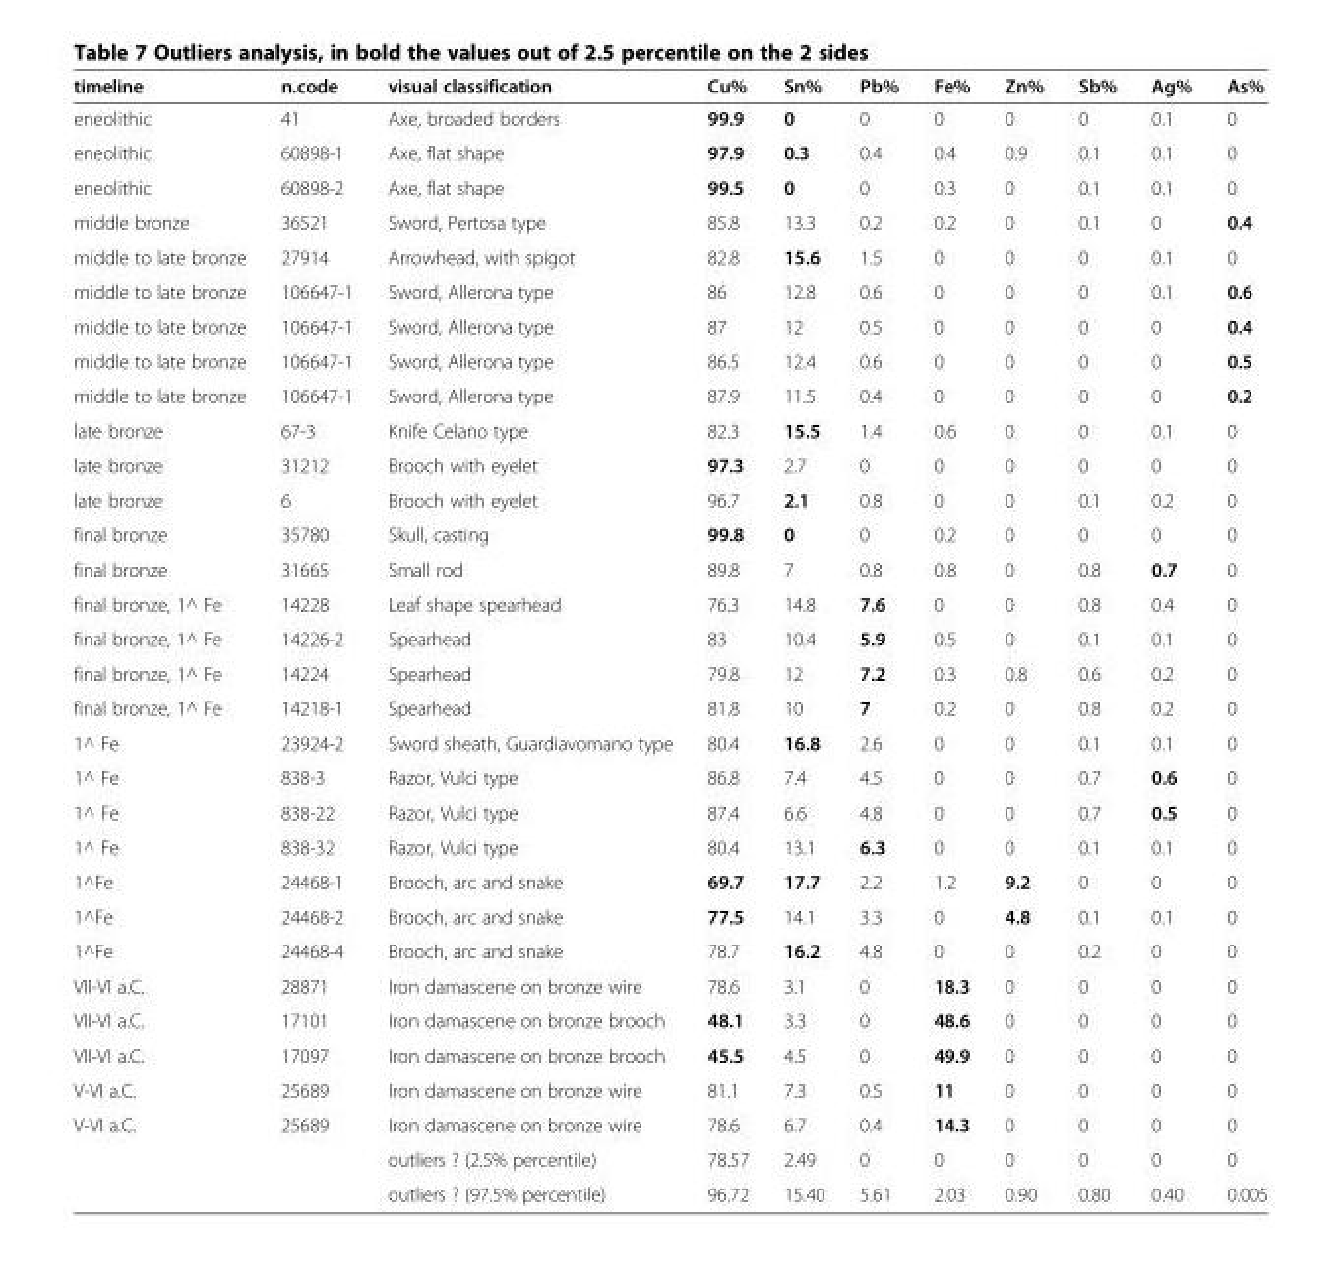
<table><thead><tr><td>timeline</td><td>n.code</td><td>visual classification</td><td>Cu%</td><td>Sn%</td><td>Pb%</td><td>Fe%</td><td>Zn%</td><td>Sb%</td><td>Ag%</td><td>As%</td></tr></thead><tbody><tr><td>eneolithic</td><td>41</td><td>Axe, broaded borders</td><td>99.9</td><td>0</td><td>0</td><td>0</td><td>0</td><td>0</td><td>0.1</td><td>0</td></tr><tr><td>eneolithic</td><td>60898-1</td><td>Axe, flat shape</td><td>97.9</td><td>0.3</td><td>0.4</td><td>0.4</td><td>0.9</td><td>0.1</td><td>0.1</td><td>0</td></tr><tr><td>eneolithic</td><td>60898-2</td><td>Axe, flat shape</td><td>99.5</td><td>0</td><td>0</td><td>0.3</td><td>0</td><td>0.1</td><td>0.1</td><td>0</td></tr><tr><td>middle bronze</td><td>36521</td><td>Sword, Pertosa type</td><td>85.8</td><td>13.3</td><td>0.2</td><td>0.2</td><td>0</td><td>0.1</td><td>0</td><td>0.4</td></tr><tr><td>middle to late bronze</td><td>27914</td><td>Arrowhead, with spigot</td><td>82.8</td><td>15.6</td><td>1.5</td><td>0</td><td>0</td><td>0</td><td>0.1</td><td>0</td></tr><tr><td>middle to late bronze</td><td>106647-1</td><td>Sword, Allerona type</td><td>86</td><td>12.8</td><td>0.6</td><td>0</td><td>0</td><td>0</td><td>0.1</td><td>0.6</td></tr><tr><td>middle to late bronze</td><td>106647-1</td><td>Sword, Allerona type</td><td>87</td><td>12</td><td>0.5</td><td>0</td><td>0</td><td>0</td><td>0</td><td>0.4</td></tr><tr><td>middle to late bronze</td><td>106647-1</td><td>Sword, Allerona type</td><td>86.5</td><td>12.4</td><td>0.6</td><td>0</td><td>0</td><td>0</td><td>0</td><td>0.5</td></tr><tr><td>middle to late bronze</td><td>106647-1</td><td>Sword, Allerona type</td><td>87.9</td><td>11.5</td><td>0.4</td><td>0</td><td>0</td><td>0</td><td>0</td><td>0.2</td></tr><tr><td>late bronze</td><td>67-3</td><td>Knife Celano type</td><td>82.3</td><td>15.5</td><td>1.4</td><td>0.6</td><td>0</td><td>0</td><td>0.1</td><td>0</td></tr><tr><td>late bronze</td><td>31212</td><td>Brooch with eyelet</td><td>97.3</td><td>2.7</td><td>0</td><td>0</td><td>0</td><td>0</td><td>0</td><td>0</td></tr><tr><td>late bronze</td><td>6</td><td>Brooch with eyelet</td><td>96.7</td><td>2.1</td><td>0.8</td><td>0</td><td>0</td><td>0.1</td><td>0.2</td><td>0</td></tr><tr><td>final bronze</td><td>35780</td><td>Skull, casting</td><td>99.8</td><td>0</td><td>0</td><td>0.2</td><td>0</td><td>0</td><td>0</td><td>0</td></tr><tr><td>final bronze</td><td>31665</td><td>Small rod</td><td>89.8</td><td>7</td><td>0.8</td><td>0.8</td><td>0</td><td>0.8</td><td>0.7</td><td>0</td></tr><tr><td>final bronze, 1^ Fe</td><td>14228</td><td>Leaf shape spearhead</td><td>76.3</td><td>14.8</td><td>7.6</td><td>0</td><td>0</td><td>0.8</td><td>0.4</td><td>0</td></tr><tr><td>final bronze, 1^ Fe</td><td>14226-2</td><td>Spearhead</td><td>83</td><td>10.4</td><td>5.9</td><td>0.5</td><td>0</td><td>0.1</td><td>0.1</td><td>0</td></tr><tr><td>final bronze, 1^ Fe</td><td>14224</td><td>Spearhead</td><td>79.8</td><td>12</td><td>7.2</td><td>0.3</td><td>0.8</td><td>0.6</td><td>0.2</td><td>0</td></tr><tr><td>final bronze, 1^ Fe</td><td>14218-1</td><td>Spearhead</td><td>81.8</td><td>10</td><td>7</td><td>0.2</td><td>0</td><td>0.8</td><td>0.2</td><td>0</td></tr><tr><td>1^ Fe</td><td>23924-2</td><td>Sword sheath, Guardiavomano type</td><td>80.4</td><td>16.8</td><td>2.6</td><td>0</td><td>0</td><td>0.1</td><td>0.1</td><td>0</td></tr><tr><td>1^ Fe</td><td>838-3</td><td>Razor, Vulci type</td><td>86.8</td><td>7.4</td><td>4.5</td><td>0</td><td>0</td><td>0.7</td><td>0.6</td><td>0</td></tr><tr><td>1^ Fe</td><td>838-22</td><td>Razor, Vulci type</td><td>87.4</td><td>6.6</td><td>4.8</td><td>0</td><td>0</td><td>0.7</td><td>0.5</td><td>0</td></tr><tr><td>1^ Fe</td><td>838-32</td><td>Razor, Vulci type</td><td>80.4</td><td>13.1</td><td>6.3</td><td>0</td><td>0</td><td>0.1</td><td>0.1</td><td>0</td></tr><tr><td>1^Fe</td><td>24468-1</td><td>Brooch, arc and snake</td><td>69.7</td><td>17.7</td><td>2.2</td><td>1.2</td><td>9.2</td><td>0</td><td>0</td><td>0</td></tr><tr><td>1^Fe</td><td>24468-2</td><td>Brooch, arc and snake</td><td>77.5</td><td>14.1</td><td>3.3</td><td>0</td><td>4.8</td><td>0.1</td><td>0.1</td><td>0</td></tr><tr><td>1^Fe</td><td>24468-4</td><td>Brooch, arc and snake</td><td>78.7</td><td>16.2</td><td>4.8</td><td>0</td><td>0</td><td>0.2</td><td>0</td><td>0</td></tr><tr><td>VII-VI a.C.</td><td>28871</td><td>Iron damascene on bronze wire</td><td>78.6</td><td>3.1</td><td>0</td><td>18.3</td><td>0</td><td>0</td><td>0</td><td>0</td></tr><tr><td>VII-VI a.C.</td><td>17101</td><td>Iron damascene on bronze brooch</td><td>48.1</td><td>3.3</td><td>0</td><td>48.6</td><td>0</td><td>0</td><td>0</td><td>0</td></tr><tr><td>VII-VI a.C.</td><td>17097</td><td>Iron damascene on bronze brooch</td><td>45.5</td><td>4.5</td><td>0</td><td>49.9</td><td>0</td><td>0</td><td>0</td><td>0</td></tr><tr><td>V-VI a.C.</td><td>25689</td><td>Iron damascene on bronze wire</td><td>81.1</td><td>7.3</td><td>0.5</td><td>11</td><td>0</td><td>0</td><td>0</td><td>0</td></tr><tr><td rowspan="3">V-VI a.C.</td><td>25689</td><td>Iron damascene on bronze wire</td><td>78.6</td><td>6.7</td><td>0.4</td><td>14.3</td><td>0</td><td>0</td><td>0</td><td>0</td></tr><tr><td></td><td>outliers ? (2.5% percentile)</td><td>78.57</td><td>2.49</td><td>0</td><td>0</td><td>0</td><td>0</td><td>0</td><td>0</td></tr><tr><td></td><td>outliers ? (97.5% percentile)</td><td>96.72</td><td>15.40</td><td>5.61</td><td>2.03</td><td>0.90</td><td>0.80</td><td>0.40</td><td>0.005</td></tr></tbody></table>